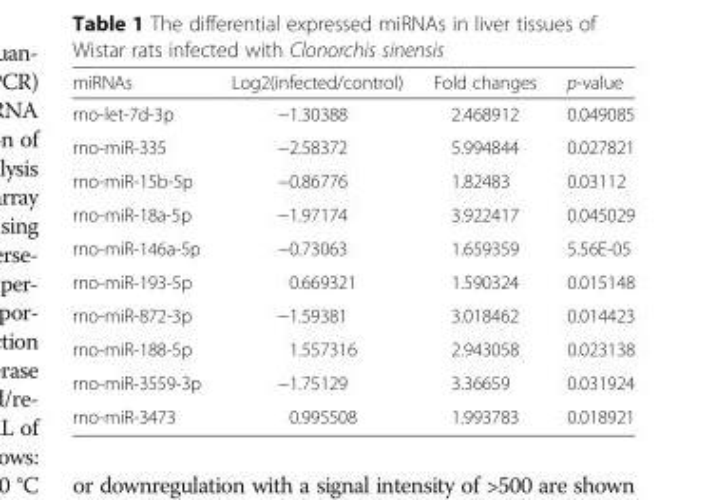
<table><thead><tr><td>miRNAs</td><td>Log2(infected/control)</td><td>Fold changes</td><td>p-value</td></tr></thead><tbody><tr><td>rno-let-7d-3p</td><td>−1.30388</td><td>2.468912</td><td>0.049085</td></tr><tr><td>rno-miR-335</td><td>−2.58372</td><td>5.994844</td><td>0.027821</td></tr><tr><td>rno-miR-15b-5p</td><td>−0.86776</td><td>1.82483</td><td>0.03112</td></tr><tr><td>rno-miR-18a-5p</td><td>−1.97174</td><td>3.922417</td><td>0.045029</td></tr><tr><td>rno-miR-146a-5p</td><td>−0.73063</td><td>1.659359</td><td>5.56E-05</td></tr><tr><td>rno-miR-193-5p</td><td>0.669321</td><td>1.590324</td><td>0.015148</td></tr><tr><td>rno-miR-872-3p</td><td>−1.59381</td><td>3.018462</td><td>0.014423</td></tr><tr><td>rno-miR-188-5p</td><td>1.557316</td><td>2.943058</td><td>0.023138</td></tr><tr><td>rno-miR-3559-3p</td><td>−1.75129</td><td>3.36659</td><td>0.031924</td></tr><tr><td>rno-miR-3473</td><td>0.995508</td><td>1.993783</td><td>0.018921</td></tr></tbody></table>